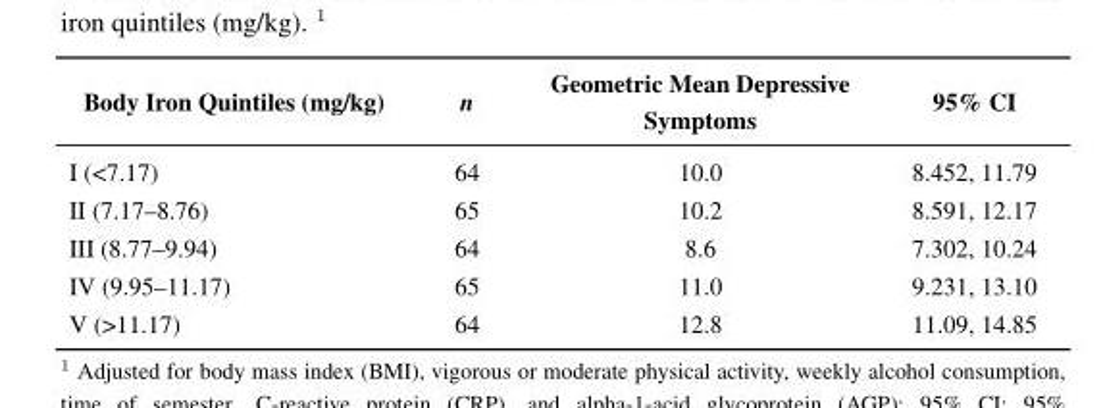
<table><thead><tr><td>Body Iron Quintiles (mg/kg)</td><td>n</td><td>Geometric Mean Depressive Symptoms</td><td>95% CI</td></tr></thead><tbody><tr><td>I (&lt;7.17)</td><td>64</td><td>10.0</td><td>8.452, 11.79</td></tr><tr><td>II (7.17–8.76)</td><td>65</td><td>10.2</td><td>8.591, 12.17</td></tr><tr><td>III (8.77–9.94)</td><td>64</td><td>8.6</td><td>7.302, 10.24</td></tr><tr><td>IV (9.95–11.17)</td><td>65</td><td>11.0</td><td>9.231, 13.10</td></tr><tr><td>V (&gt;11.17)</td><td>64</td><td>12.8</td><td>11.09, 14.85</td></tr></tbody></table>